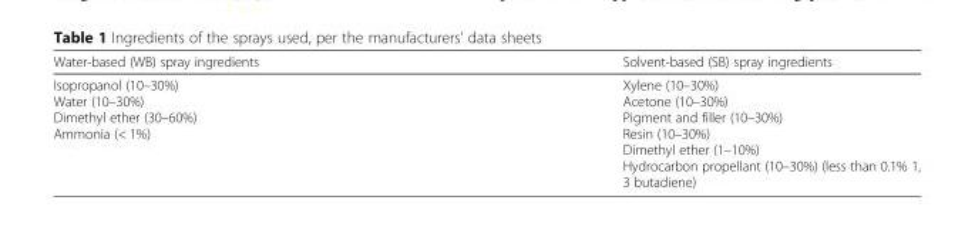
<table><thead><tr><td>Water-based (WB) spray ingredients</td><td>Solvent-based (SB) spray ingredients</td></tr></thead><tbody><tr><td>Isopropanol (10–30%) Water (10–30%) Dimethyl ether (30–60%) Ammonia (&lt; 1%)</td><td>Xylene (10–30%) Acetone (10–30%) Pigment and filler (10–30%) Resin (10–30%) Dimethyl ether (1–10%) Hydrocarbon propellant (10–30%) (less than 0.1% 1, 3 butadiene)</td></tr></tbody></table>